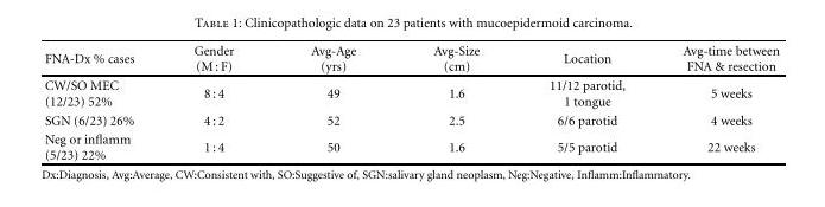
<table><thead><tr><td>FNA-Dx % cases</td><td>Gender (M : F)</td><td>Avg-Age (yrs)</td><td>Avg-Size (cm)</td><td>Location</td><td>Avg-time between FNA &amp; resection</td></tr></thead><tbody><tr><td>CW/SO MEC (12/23) 52%</td><td>8 : 4</td><td>49</td><td>1.6</td><td>11/12 parotid, 1 tongue</td><td>5 weeks</td></tr><tr><td>SGN (6/23) 26%</td><td>4 : 2</td><td>52</td><td>2.5</td><td>6/6 parotid</td><td>4 weeks</td></tr><tr><td>Neg or inflamm (5/23) 22%</td><td>1 : 4</td><td>50</td><td>1.6</td><td>5/5 parotid</td><td>22 weeks</td></tr></tbody></table>